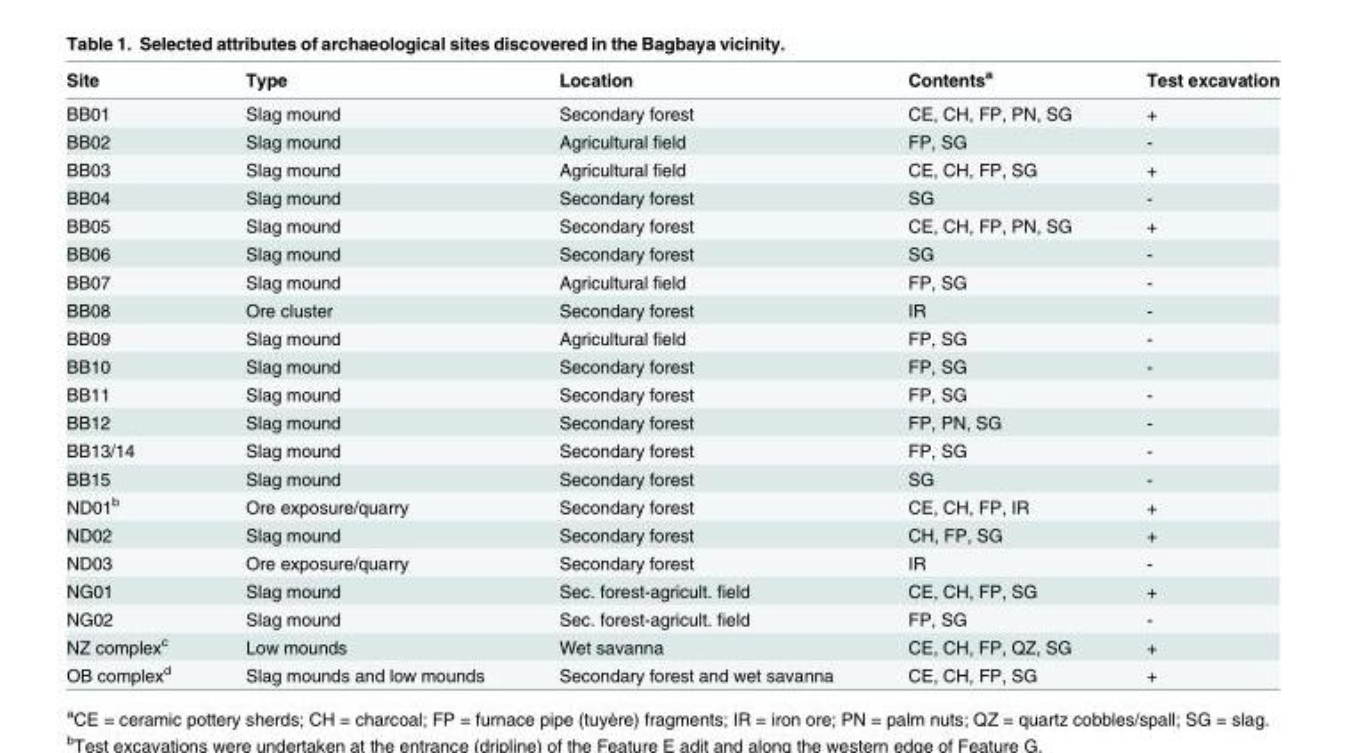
<table><thead><tr><td>Site</td><td>Type</td><td>Location</td><td>Contents<sup>a</sup></td><td>Test excavation</td></tr></thead><tbody><tr><td>BB01</td><td>Slag mound</td><td>Secondary forest</td><td>CE, CH, FP, PN, SG</td><td>+</td></tr><tr><td>BB02</td><td>Slag mound</td><td>Agricultural field</td><td>FP, SG</td><td>-</td></tr><tr><td>BB03</td><td>Slag mound</td><td>Agricultural field</td><td>CE, CH, FP, SG</td><td>+</td></tr><tr><td>BB04</td><td>Slag mound</td><td>Secondary forest</td><td>SG</td><td>-</td></tr><tr><td>BB05</td><td>Slag mound</td><td>Secondary forest</td><td>CE, CH, FP, PN, SG</td><td>+</td></tr><tr><td>BB06</td><td>Slag mound</td><td>Secondary forest</td><td>SG</td><td>-</td></tr><tr><td>BB07</td><td>Slag mound</td><td>Agricultural field</td><td>FP, SG</td><td>-</td></tr><tr><td>BB08</td><td>Ore cluster</td><td>Secondary forest</td><td>IR</td><td>-</td></tr><tr><td>BB09</td><td>Slag mound</td><td>Agricultural field</td><td>FP, SG</td><td>-</td></tr><tr><td>BB10</td><td>Slag mound</td><td>Secondary forest</td><td>FP, SG</td><td>-</td></tr><tr><td>BB11</td><td>Slag mound</td><td>Secondary forest</td><td>FP, SG</td><td>-</td></tr><tr><td>BB12</td><td>Slag mound</td><td>Secondary forest</td><td>FP, PN, SG</td><td>-</td></tr><tr><td>BB13/14</td><td>Slag mound</td><td>Secondary forest</td><td>FP, SG</td><td>-</td></tr><tr><td>BB15</td><td>Slag mound</td><td>Secondary forest</td><td>SG</td><td>-</td></tr><tr><td>ND01<sup>b</sup></td><td>Ore exposure/quarry</td><td>Secondary forest</td><td>CE, CH, FP, IR</td><td>+</td></tr><tr><td>ND02</td><td>Slag mound</td><td>Secondary forest</td><td>CH, FP, SG</td><td>+</td></tr><tr><td>ND03</td><td>Ore exposure/quarry</td><td>Secondary forest</td><td>IR</td><td>-</td></tr><tr><td>NG01</td><td>Slag mound</td><td>Sec. forest-agricult. field</td><td>CE, CH, FP, SG</td><td>+</td></tr><tr><td>NG02</td><td>Slag mound</td><td>Sec. forest-agricult. field</td><td>FP, SG</td><td>-</td></tr><tr><td>NZ complex<sup>c</sup></td><td>Low mounds</td><td>Wet savanna</td><td>CE, CH, FP, QZ, SG</td><td>+</td></tr><tr><td>OB complex<sup>d</sup></td><td>Slag mounds and low mounds</td><td>Secondary forest and wet savanna</td><td>CE, CH, FP, SG</td><td>+</td></tr></tbody></table>